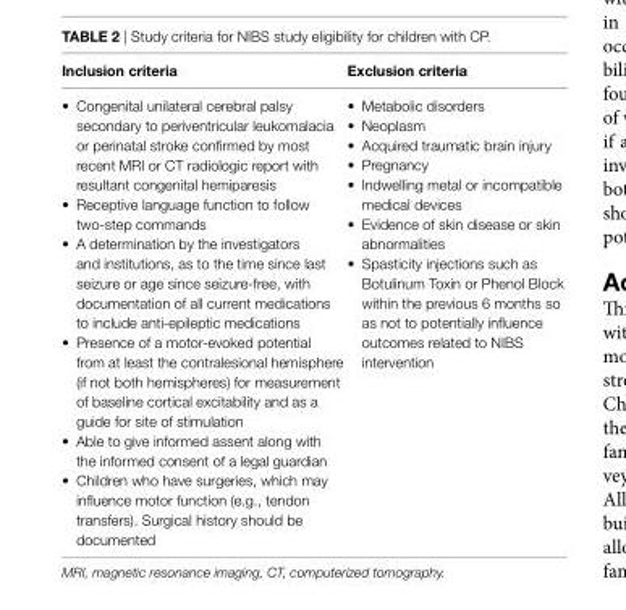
<table><thead><tr><td>inclusion criteria</td><td>exclusion criteria</td></tr></thead><tbody><tr><td>• Congenital unilateral cerebral palsy secondary to periventricular leukomalacia or perinatal stroke confirmed by most recent MRI or CT radiologic report with resultant congenital hemiparesis • Receptive language function to follow two-step commands • A determination by the investigators and institutions, as to the time since last seizure or age since seizure-free, with documentation of all current medications to include anti-epileptic medications • Presence of a motor-evoked potential from at least the contralesional hemisphere (if not both hemispheres) for measurement of baseline cortical excitability and as a guide for site of stimulation • Able to give informed assent along with the informed consent of a legal guardian • Children who have surgeries, which may influence motor function (e.g., tendon transfers). Surgical history should be documented</td><td>• Metabolic disorders • Neoplasm • Acquired traumatic brain injury • Pregnancy • Indwelling metal or incompatible medical devices • Evidence of skin disease or skin abnormalities • Spasticity injections such as Botulinum Toxin or Phenol Block within the previous 6 months so as not to potentially influence outcomes related to NIBS intervention</td></tr></tbody></table>